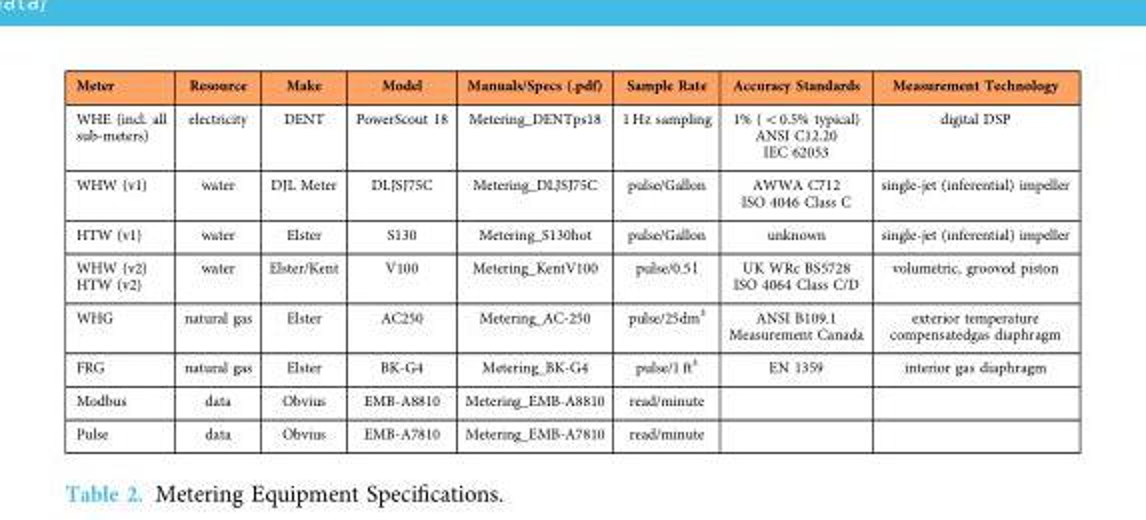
<table><thead><tr><td>Meter</td><td>Resource</td><td>Make</td><td>Model</td><td>Manuals/Specs (.pdf)</td><td>Sample Rate</td><td>Accuracy Standards</td><td>Measurement Technology</td></tr></thead><tbody><tr><td>WHE (incl. all sub-meters)</td><td>electricity</td><td>DENT</td><td>PowerScout 18</td><td>Metering_DENTps18</td><td>1 Hz sampling</td><td>1% (&lt;0.5% typical) ANSI C12.20 IEC 62053</td><td>digital DSP</td></tr><tr><td>WHW (v1)</td><td>water</td><td>DJL Meter</td><td>DLJSJ75C</td><td>Metering_DLJSJ75C</td><td>pulse/Gallon</td><td>AWWA C712 ISO 4046 Class C</td><td>single-jet (inferential) impeller</td></tr><tr><td>HTW (v1)</td><td>water</td><td>Elster</td><td>S130</td><td>Metering_S130hot</td><td>pulse/Gallon</td><td>unknown</td><td>single-jet (inferential) impeller</td></tr><tr><td>WHW (v2) HTW (v2)</td><td>water</td><td>Elster/Kent</td><td>V100</td><td>Metering_KentV100</td><td>pulse/0.5 l</td><td>UK WRc BS5728 ISO 4064 Class C/D</td><td>volumetric, grooved piston</td></tr><tr><td>WHG</td><td>natural gas</td><td>Elster</td><td>AC250</td><td>Metering_AC-250</td><td>pulse/25dm<sup>3</sup></td><td>ANSI B109.1 Measurement Canada</td><td>exterior temperature compensatedgas diaphragm</td></tr><tr><td>FRG</td><td>natural gas</td><td>Elster</td><td>BK-G4</td><td>Metering_BK-G4</td><td>pulse/1 ft<sup>3</sup></td><td>EN 1359</td><td>interior gas diaphragm</td></tr><tr><td>Modbus</td><td>data</td><td>Obvius</td><td>EMB-A8810</td><td>Metering_EMB-A8810</td><td>read/minute</td><td></td><td></td></tr><tr><td>Pulse</td><td>data</td><td>Obvius</td><td>EMB-A7810</td><td>Metering_EMB-A7810</td><td>read/minute</td><td></td><td></td></tr></tbody></table>